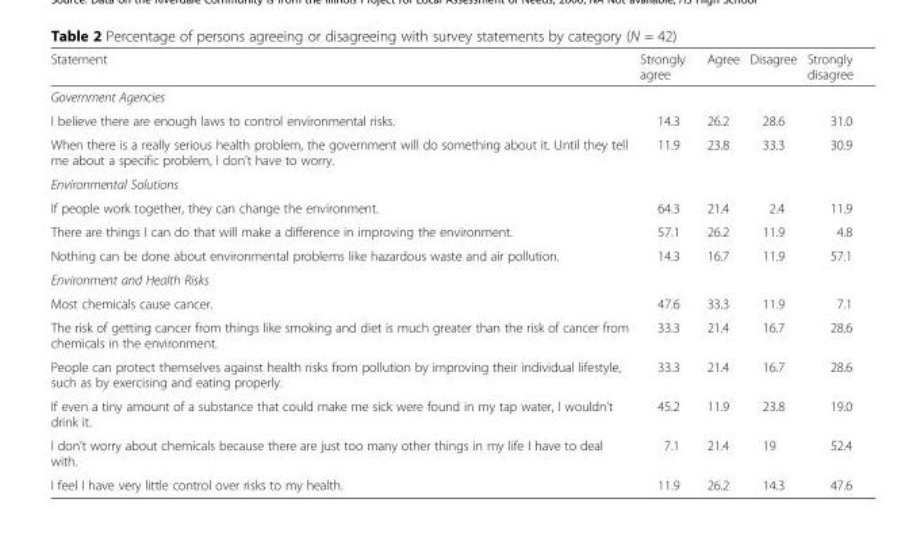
<table><thead><tr><td>Statement</td><td>Strongly agree</td><td>Agree</td><td>Disagree</td><td>Strongly disagree</td></tr></thead><tbody><tr><td colspan="5">Government Agencies</td></tr><tr><td>I believe there are enough laws to control environmental risks.</td><td>14.3</td><td>26.2</td><td>28.6</td><td>31.0</td></tr><tr><td>When there is a really serious health problem, the government will do something about it. Until they tell me about a specific problem, I don’t have to worry.</td><td>11.9</td><td>23.8</td><td>33.3</td><td>30.9</td></tr><tr><td colspan="5">Environmental Solutions</td></tr><tr><td>If people work together, they can change the environment.</td><td>64.3</td><td>21.4</td><td>2.4</td><td>11.9</td></tr><tr><td>There are things I can do that will make a difference in improving the environment.</td><td>57.1</td><td>26.2</td><td>11.9</td><td>4.8</td></tr><tr><td>Nothing can be done about environmental problems like hazardous waste and air pollution.</td><td>14.3</td><td>16.7</td><td>11.9</td><td>57.1</td></tr><tr><td colspan="5">Environment and Health Risks</td></tr><tr><td>Most chemicals cause cancer.</td><td>47.6</td><td>33.3</td><td>11.9</td><td>7.1</td></tr><tr><td>The risk of getting cancer from things like smoking and diet is much greater than the risk of cancer from chemicals in the environment.</td><td>33.3</td><td>21.4</td><td>16.7</td><td>28.6</td></tr><tr><td>People can protect themselves against health risks from pollution by improving their individual lifestyle, such as by exercising and eating properly.</td><td>33.3</td><td>21.4</td><td>16.7</td><td>28.6</td></tr><tr><td>If even a tiny amount of a substance that could make me sick were found in my tap water, I wouldn’t drink it.</td><td>45.2</td><td>11.9</td><td>23.8</td><td>19.0</td></tr><tr><td>I don’t worry about chemicals because there are just too many other things in my life I have to deal with.</td><td>7.1</td><td>21.4</td><td>19</td><td>52.4</td></tr><tr><td>I feel I have very little control over risks to my health.</td><td>11.9</td><td>26.2</td><td>14.3</td><td>47.6</td></tr></tbody></table>